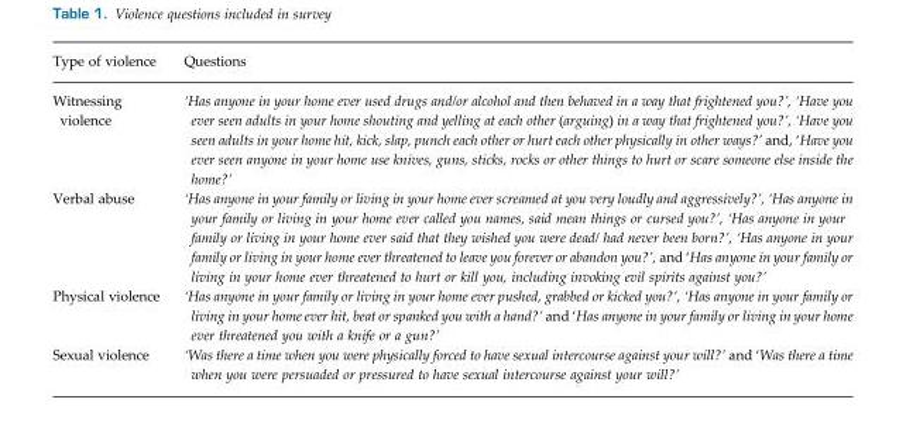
<table><thead><tr><td>Type of violence</td><td>Questions</td></tr></thead><tbody><tr><td>Witnessing violence</td><td>‘Has anyone in your home ever used drugs and/or alcohol and then behaved in a way that frightened you?’, ‘Have you ever seen adults in your home shouting and yelling at each other (arguing) in a way that frightened you?’, ‘Have you seen adults in your home hit, kick, slap, punch each other or hurt each other physically in other ways?’ and, ‘Have you ever seen anyone in your home use knives, guns, sticks, rocks or other things to hurt or scare someone else inside the home?’</td></tr><tr><td>Verbal abuse</td><td>‘Has anyone in your family or living in your home ever screamed at you very loudly and aggressively?’, ‘Has anyone in your family or living in your home ever called you names, said mean things or cursed you?’, ‘Has anyone in your family or living in your home ever said that they wished you were dead/ had never been born?’, ‘Has anyone in your family or living in your home ever threatened to leave you forever or abandon you?’, and ‘Has anyone in your family or living in your home ever threatened to hurt or kill you, including invoking evil spirits against you?’</td></tr><tr><td>Physical violence</td><td>‘Has anyone in your family or living in your home ever pushed, grabbed or kicked you?’, ‘Has anyone in your family or living in your home ever hit, beat or spanked you with a hand?’ and ‘Has anyone in your family or living in your home ever threatened you with a knife or a gun?’</td></tr><tr><td>Sexual violence</td><td>‘Was there a time when you were physically forced to have sexual intercourse against your will?’ and ‘Was there a time when you were persuaded or pressured to have sexual intercourse against your will?’</td></tr></tbody></table>